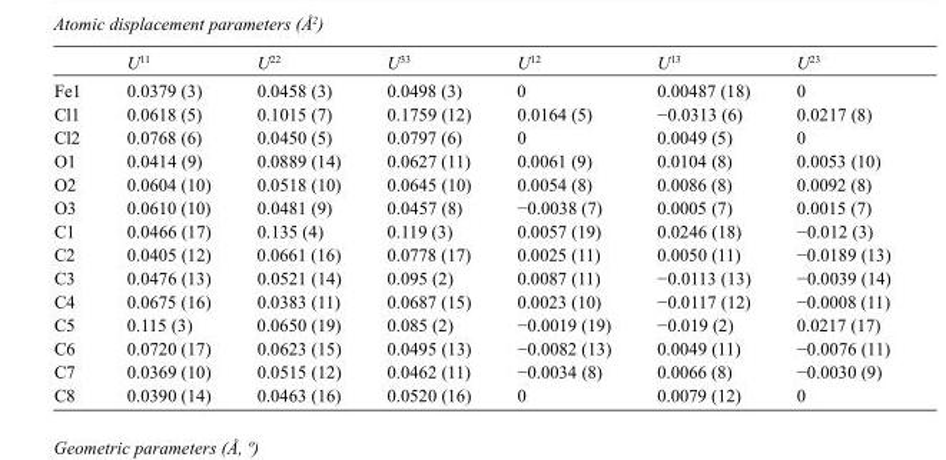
<table><thead><tr><td></td><td>U<sup>11</sup></td><td>U<sup>22</sup></td><td>U<sup>33</sup></td><td>U<sup>12</sup></td><td>U<sup>13</sup></td><td>U<sup>23</sup></td></tr></thead><tbody><tr><td>Fe1</td><td>0.0379 (3)</td><td>0.0458 (3)</td><td>0.0498 (3)</td><td>0</td><td>0.00487 (18)</td><td>0</td></tr><tr><td>Cl1</td><td>0.0618 (5)</td><td>0.1015 (7)</td><td>0.1759 (12)</td><td>0.0164 (5)</td><td>−0.0313 (6)</td><td>0.0217 (8)</td></tr><tr><td>Cl2</td><td>0.0768 (6)</td><td>0.0450 (5)</td><td>0.0797 (6)</td><td>0</td><td>0.0049 (5)</td><td>0</td></tr><tr><td>O1</td><td>0.0414 (9)</td><td>0.0889 (14)</td><td>0.0627 (11)</td><td>0.0061 (9)</td><td>0.0104 (8)</td><td>0.0053 (10)</td></tr><tr><td>O2</td><td>0.0604 (10)</td><td>0.0518 (10)</td><td>0.0645 (10)</td><td>0.0054 (8)</td><td>0.0086 (8)</td><td>0.0092 (8)</td></tr><tr><td>O3</td><td>0.0610 (10)</td><td>0.0481 (9)</td><td>0.0457 (8)</td><td>−0.0038 (7)</td><td>0.0005 (7)</td><td>0.0015 (7)</td></tr><tr><td>C1</td><td>0.0466 (17)</td><td>0.135 (4)</td><td>0.119 (3)</td><td>0.0057 (19)</td><td>0.0246 (18)</td><td>−0.012 (3)</td></tr><tr><td>C2</td><td>0.0405 (12)</td><td>0.0661 (16)</td><td>0.0778 (17)</td><td>0.0025 (11)</td><td>0.0050 (11)</td><td>−0.0189 (13)</td></tr><tr><td>C3</td><td>0.0476 (13)</td><td>0.0521 (14)</td><td>0.095 (2)</td><td>0.0087 (11)</td><td>−0.0113 (13)</td><td>−0.0039 (14)</td></tr><tr><td>C4</td><td>0.0675 (16)</td><td>0.0383 (11)</td><td>0.0687 (15)</td><td>0.0023 (10)</td><td>−0.0117 (12)</td><td>−0.0008 (11)</td></tr><tr><td>C5</td><td>0.115 (3)</td><td>0.0650 (19)</td><td>0.085 (2)</td><td>−0.0019 (19)</td><td>−0.019 (2)</td><td>0.0217 (17)</td></tr><tr><td>C6</td><td>0.0720 (17)</td><td>0.0623 (15)</td><td>0.0495 (13)</td><td>−0.0082 (13)</td><td>0.0049 (11)</td><td>−0.0076 (11)</td></tr><tr><td>C7</td><td>0.0369 (10)</td><td>0.0515 (12)</td><td>0.0462 (11)</td><td>−0.0034 (8)</td><td>0.0066 (8)</td><td>−0.0030 (9)</td></tr><tr><td>C8</td><td>0.0390 (14)</td><td>0.0463 (16)</td><td>0.0520 (16)</td><td>0</td><td>0.0079 (12)</td><td>0</td></tr></tbody></table>